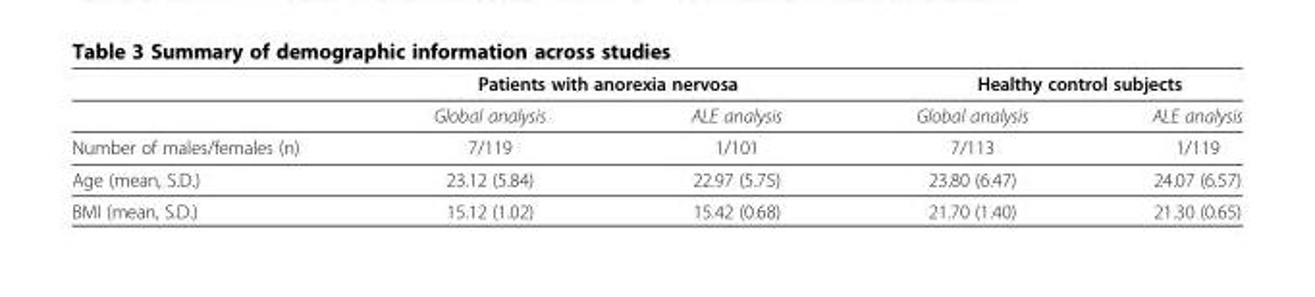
<table><thead><tr><td rowspan="2"></td><td colspan="2">Patients with anorexia nervosa</td><td colspan="2">Healthy control subjects</td></tr><tr><td>Global analysis</td><td>ALE analysis</td><td>Global analysis</td><td>ALE analysis</td></tr></thead><tbody><tr><td>Number of males/females (n)</td><td>7/119</td><td>1/101</td><td>7/113</td><td>1/119</td></tr><tr><td>Age (mean, S.D.)</td><td>23.12 (5.84)</td><td>22.97 (5.75)</td><td>23.80 (6.47)</td><td>24.07 (6.57)</td></tr><tr><td>BMI (mean, S.D.)</td><td>15.12 (1.02)</td><td>15.42 (0.68)</td><td>21.70 (1.40)</td><td>21.30 (0.65)</td></tr></tbody></table>